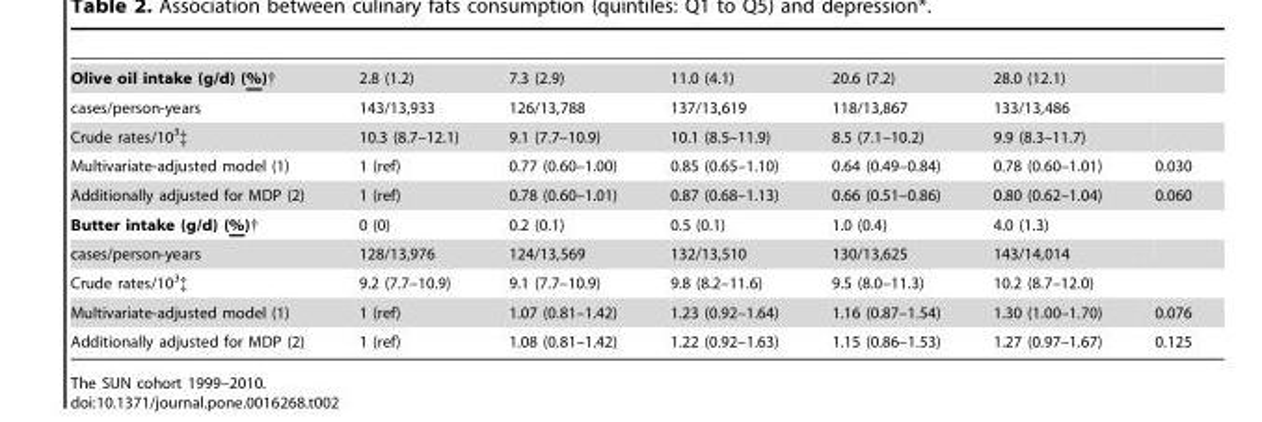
<table><tbody><tr><td>Olive oil intake (g/d) (%)†</td><td>2.8 (1.2)</td><td>7.3 (2.9)</td><td>11.0 (4.1)</td><td>20.6 (7.2)</td><td>28.0 (12.1)</td><td></td></tr><tr><td>cases/person-years</td><td>143/13,933</td><td>126/13,788</td><td>137/13,619</td><td>118/13,867</td><td>133/13,486</td><td></td></tr><tr><td>Crude rates/10<sup>3</sup>‡</td><td>10.3 (8.7–12.1)</td><td>9.1 (7.7–10.9)</td><td>10.1 (8.5–11.9)</td><td>8.5 (7.1–10.2)</td><td>9.9 (8.3–11.7)</td><td></td></tr><tr><td>Multivariate-adjusted model (1)</td><td>1 (ref)</td><td>0.77 (0.60–1.00)</td><td>0.85 (0.65–1.10)</td><td>0.64 (0.49–0.84)</td><td>0.78 (0.60–1.01)</td><td>0.030</td></tr><tr><td>Additionally adjusted for MDP (2)</td><td>1 (ref)</td><td>0.78 (0.60–1.01)</td><td>0.87 (0.68–1.13)</td><td>0.66 (0.51–0.86)</td><td>0.80 (0.62–1.04)</td><td>0.060</td></tr><tr><td>Butter intake (g/d) (%)†</td><td>0 (0)</td><td>0.2 (0.1)</td><td>0.5 (0.1)</td><td>1.0 (0.4)</td><td>4.0 (1.3)</td><td></td></tr><tr><td>cases/person-years</td><td>128/13,976</td><td>124/13,569</td><td>132/13,510</td><td>130/13,625</td><td>143/14,014</td><td></td></tr><tr><td>Crude rates/10<sup>3</sup>‡</td><td>9.2 (7.7–10.9)</td><td>9.1 (7.7–10.9)</td><td>9.8 (8.2–11.6)</td><td>9.5 (8.0–11.3)</td><td>10.2 (8.7–12.0)</td><td></td></tr><tr><td>Multivariate-adjusted model (1)</td><td>1 (ref)</td><td>1.07 (0.81–1.42)</td><td>1.23 (0.92–1.64)</td><td>1.16 (0.87–1.54)</td><td>1.30 (1.00–1.70)</td><td>0.076</td></tr><tr><td>Additionally adjusted for MDP (2)</td><td>1 (ref)</td><td>1.08 (0.81–1.42)</td><td>1.22 (0.92–1.63)</td><td>1.15 (0.86–1.53)</td><td>1.27 (0.97–1.67)</td><td>0.125</td></tr></tbody></table>